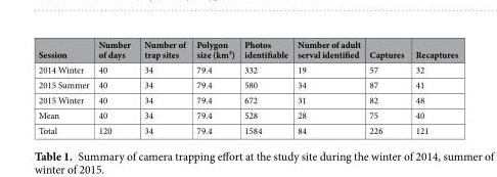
<table><thead><tr><td>Session</td><td>Number of days</td><td>Number of trap sites</td><td>Polygon size (km²)</td><td>Photos identifiable</td><td>Number of adult serval identified</td><td>Captures</td><td>Recaptures</td></tr></thead><tbody><tr><td>2014 Winter</td><td>40</td><td>34</td><td>79.4</td><td>332</td><td>19</td><td>57</td><td>32</td></tr><tr><td>2015 Summer</td><td>40</td><td>34</td><td>79.4</td><td>580</td><td>34</td><td>87</td><td>41</td></tr><tr><td>2015 Winter</td><td>40</td><td>34</td><td>79.4</td><td>672</td><td>31</td><td>82</td><td>48</td></tr><tr><td>Mean</td><td>40</td><td>34</td><td>79.4</td><td>528</td><td>28</td><td>75</td><td>40</td></tr><tr><td>Total</td><td>120</td><td>34</td><td>79.4</td><td>1584</td><td>84</td><td>226</td><td>121</td></tr></tbody></table>